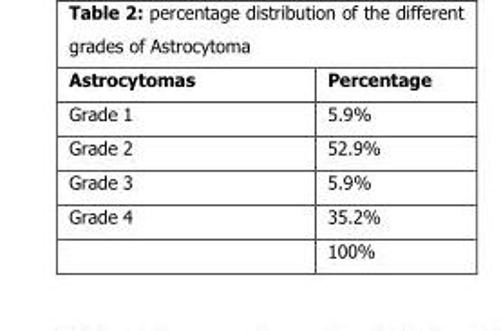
<table><thead><tr><td>Astrocytomas</td><td>Percentage</td></tr></thead><tbody><tr><td>Grade 1</td><td>5.9%</td></tr><tr><td>Grade 2</td><td>52.9%</td></tr><tr><td>Grade 3</td><td>5.9%</td></tr><tr><td rowspan="2">Grade 4</td><td>35.2%</td></tr><tr><td>100%</td></tr></tbody></table>